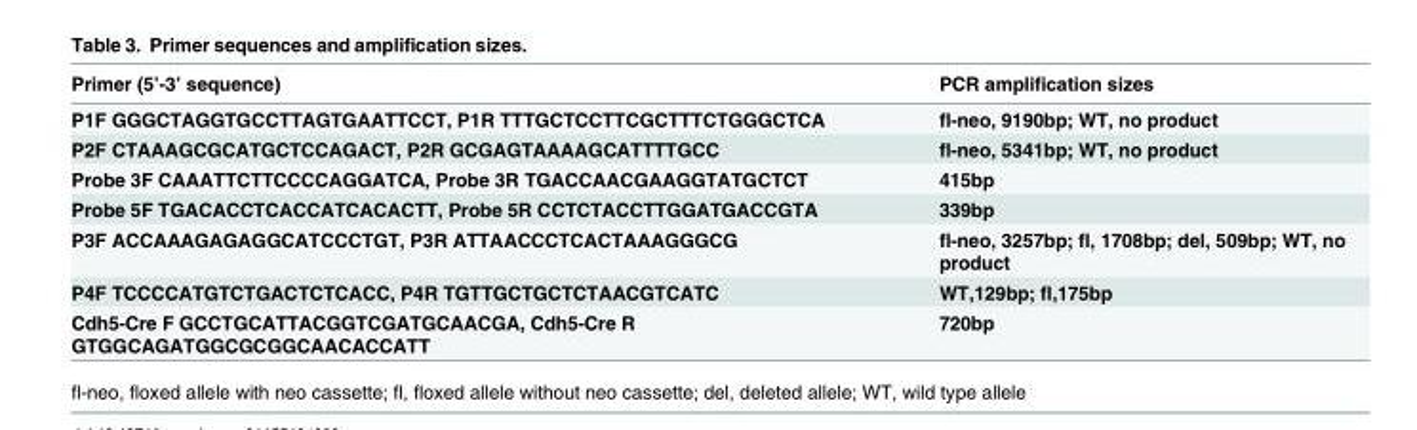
<table><thead><tr><td>Primer (5’-3’ sequence)</td><td>PCR amplification sizes</td></tr></thead><tbody><tr><td>P1F GGGCTAGGTGCCTTAGTGAATTCCT, P1R TTTGCTCCTTCGCTTTCTGGGCTCA</td><td>fl-neo, 9190bp; WT, no product</td></tr><tr><td>P2F CTAAAGCGCATGCTCCAGACT, P2R GCGAGTAAAAGCATTTTGCC</td><td>fl-neo, 5341bp; WT, no product</td></tr><tr><td>Probe 3F CAAATTCTTCCCCAGGATCA, Probe 3R TGACCAACGAAGGTATGCTCT</td><td>415bp</td></tr><tr><td>Probe 5F TGACACCTCACCATCACACTT, Probe 5R CCTCTACCTTGGATGACCGTA</td><td>339bp</td></tr><tr><td>P3F ACCAAAGAGAGGCATCCCTGT, P3R ATTAACCCTCACTAAAGGGCG</td><td>fl-neo, 3257bp; fl, 1708bp; del, 509bp; WT, no product</td></tr><tr><td>P4F TCCCCATGTCTGACTCTCACC, P4R TGTTGCTGCTCTAACGTCATC</td><td>WT,129bp; fl,175bp</td></tr><tr><td>Cdh5-Cre F GCCTGCATTACGGTCGATGCAACGA, Cdh5-Cre R GTGGCAGATGGCGCGGCAACACCATT</td><td>720bp</td></tr></tbody></table>